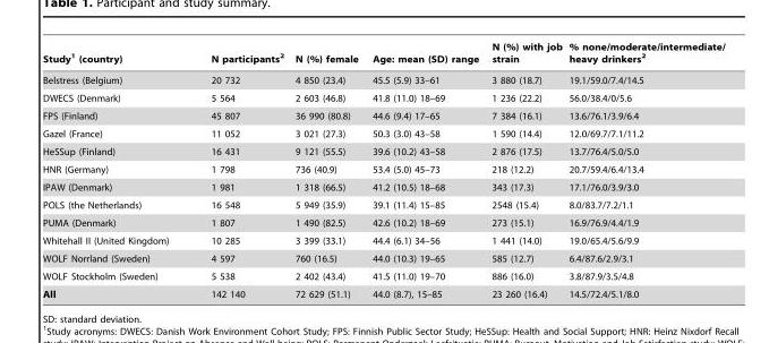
<table><thead><tr><td>Study<sup>1</sup> (country)</td><td>N participants<sup>2</sup></td><td>N (%) female</td><td>Age: mean (SD) range</td><td>N (%) with job strain</td><td>% none/moderate/intermediate/ heavy drinkers<sup>2</sup></td></tr></thead><tbody><tr><td>Belstress (Belgium)</td><td>20 732</td><td>4 850 (23.4)</td><td>45.5 (5.9) 33–61</td><td>3 880 (18.7)</td><td>19.1/59.0/7.4/14.5</td></tr><tr><td>DWECS (Denmark)</td><td>5 564</td><td>2 603 (46.8)</td><td>41.8 (11.0) 18–69</td><td>1 236 (22.2)</td><td>56.0/38.4/0/5.6</td></tr><tr><td>FPS (Finland)</td><td>45 807</td><td>36 990 (80.8)</td><td>44.6 (9.4) 17–65</td><td>7 384 (16.1)</td><td>13.6/76.1/3.9/6.4</td></tr><tr><td>Gazel (France)</td><td>11 052</td><td>3 021 (27.3)</td><td>50.3 (3.0) 43–58</td><td>1 590 (14.4)</td><td>12.0/69.7/7.1/11.2</td></tr><tr><td>HeSSup (Finland)</td><td>16 431</td><td>9 121 (55.5)</td><td>39.6 (10.2) 43–58</td><td>2 876 (17.5)</td><td>13.7/76.4/5.0/5.0</td></tr><tr><td>HNR (Germany)</td><td>1 798</td><td>736 (40.9)</td><td>53.4 (5.0) 45–73</td><td>218 (12.2)</td><td>20.7/59.4/6.4/13.4</td></tr><tr><td>IPAW (Denmark)</td><td>1 981</td><td>1 318 (66.5)</td><td>41.2 (10.5) 18–68</td><td>343 (17.3)</td><td>17.1/76.0/3.9/3.0</td></tr><tr><td>POLS (the Netherlands)</td><td>16 548</td><td>5 949 (35.9)</td><td>39.1 (11.4) 15–85</td><td>2548 (15.4)</td><td>8.0/83.7/7.2/1.1</td></tr><tr><td>PUMA (Denmark)</td><td>1 807</td><td>1 490 (82.5)</td><td>42.6 (10.2) 18–69</td><td>273 (15.1)</td><td>16.9/76.9/4.4/1.9</td></tr><tr><td>Whitehall II (United Kingdom)</td><td>10 285</td><td>3 399 (33.1)</td><td>44.4 (6.1) 34–56</td><td>1 441 (14.0)</td><td>19.0/65.4/5.6/9.9</td></tr><tr><td>WOLF Norrland (Sweden)</td><td>4 597</td><td>760 (16.5)</td><td>44.0 (10.3) 19–65</td><td>585 (12.7)</td><td>6.4/87.6/2.9/3.1</td></tr><tr><td>WOLF Stockholm (Sweden)</td><td>5 538</td><td>2 402 (43.4)</td><td>41.5 (11.0) 19–70</td><td>886 (16.0)</td><td>3.8/87.9/3.5/4.8</td></tr><tr><td>All</td><td>142 140</td><td>72 629 (51.1)</td><td>44.0 (8.7), 15–85</td><td>23 260 (16.4)</td><td>14.5/72.4/5.1/8.0</td></tr></tbody></table>